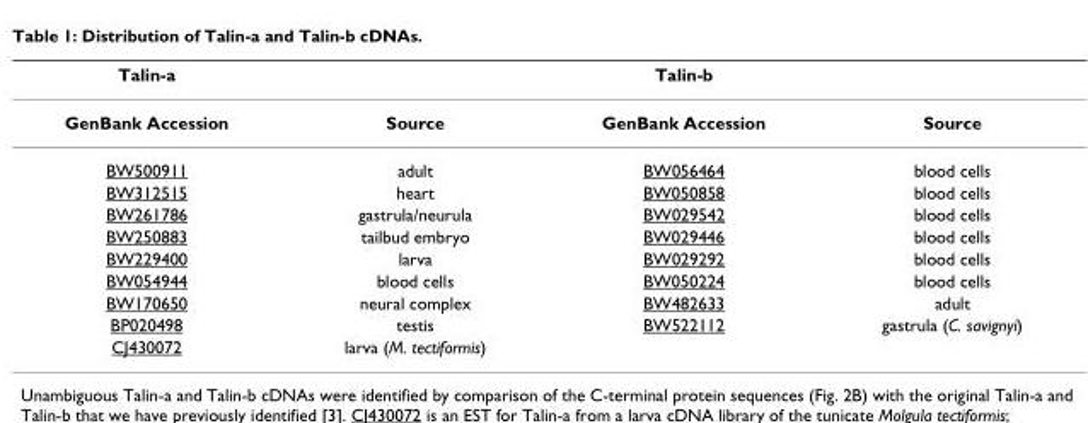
<table><thead><tr><td>Talin-a</td><td></td><td>Talin-b</td><td></td></tr></thead><tbody><tr><td>GenBank Accession</td><td>Source</td><td>GenBank Accession</td><td>Source</td></tr><tr><td>BW500911</td><td>adult</td><td>BW056464</td><td>blood cells</td></tr><tr><td>BW312515</td><td>heart</td><td>BW050858</td><td>blood cells</td></tr><tr><td>BW261786</td><td>gastrula/neurula</td><td>BW029542</td><td>blood cells</td></tr><tr><td>BW250883</td><td>tailbud embryo</td><td>BW029446</td><td>blood cells</td></tr><tr><td>BW229400</td><td>larva</td><td>BW029292</td><td>blood cells</td></tr><tr><td>BW054944</td><td>blood cells</td><td>BW050224</td><td>blood cells</td></tr><tr><td>BW170650</td><td>neural complex</td><td>BW482633</td><td>adult</td></tr><tr><td>BP020498</td><td>testis</td><td>BW522112</td><td>gastrula (C. savignyi)</td></tr><tr><td>CJ430072</td><td>larva (M. tectiformis)</td><td></td><td></td></tr></tbody></table>